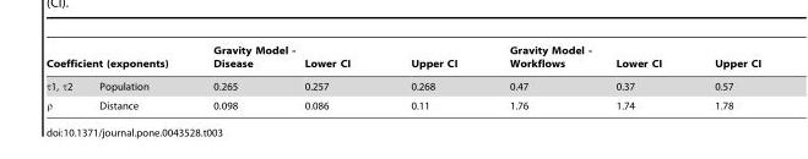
<table><thead><tr><td colspan="2">Coefficient (exponents)</td><td rowspan="2">Gravity Model - Disease 0.265</td><td rowspan="2">Lower CI 0.257</td><td rowspan="2">Upper CI 0.268</td><td rowspan="2">Gravity Model - Workflows 0.47</td><td rowspan="2">Lower CI 0.37</td><td rowspan="2">Upper CI 0.57</td></tr><tr><td>τ1, τ2</td><td>Population</td></tr></thead><tbody><tr><td>ρ</td><td>Distance</td><td>0.098</td><td>0.086</td><td>0.11</td><td>1.76</td><td>1.74</td><td>1.78</td></tr></tbody></table>